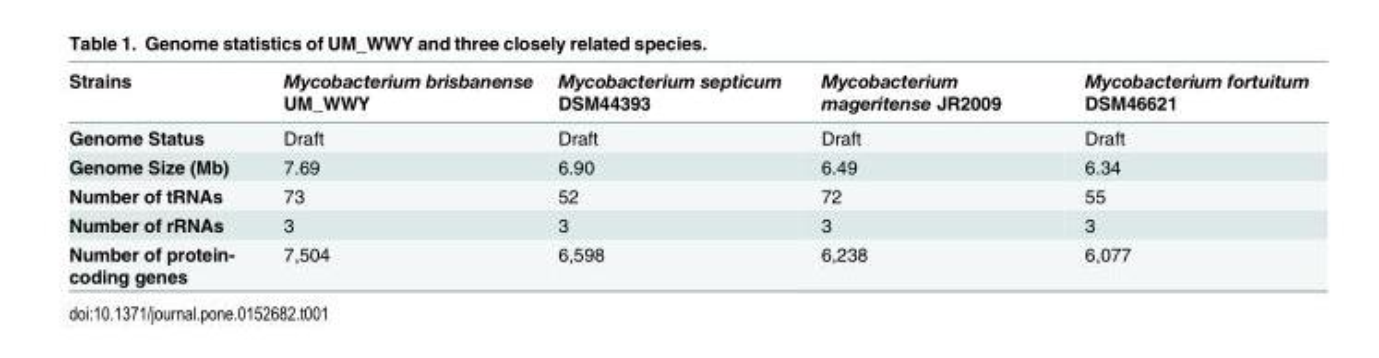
<table><thead><tr><td>Strains</td><td>Mycobacterium brisbanense UM_WWY</td><td>Mycobacterium septicum DSM44393</td><td>Mycobacterium mageritense JR2009</td><td>Mycobacterium fortuitum DSM46621</td></tr></thead><tbody><tr><td>Genome Status</td><td>Draft</td><td>Draft</td><td>Draft</td><td>Draft</td></tr><tr><td>Genome Size (Mb)</td><td>7.69</td><td>6.90</td><td>6.49</td><td>6.34</td></tr><tr><td>Number of tRNAs</td><td>73</td><td>52</td><td>72</td><td>55</td></tr><tr><td>Number of rRNAs</td><td>3</td><td>3</td><td>3</td><td>3</td></tr><tr><td>Number of protein- coding genes</td><td>7,504</td><td>6,598</td><td>6,238</td><td>6,077</td></tr></tbody></table>